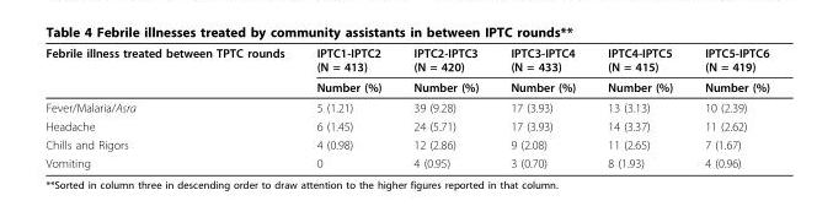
<table><thead><tr><td rowspan="2">Febrile illness treated between TPTC rounds</td><td rowspan="2">IPTC1-IPTC2 (N = 413) Number (%)</td><td rowspan="2">IPTC2-IPTC3 (N = 420) Number (%)</td><td rowspan="2">IPTC3-IPTC4 (N = 433) Number (%)</td><td rowspan="2">IPTC4-IPTC5 (N = 415) Number (%)</td><td rowspan="2">IPTC5-IPTC6 (N = 419) Number (%)</td></tr><tr></tr></thead><tbody><tr><td>Fever/Malaria/Asra</td><td>5 (1.21)</td><td>39 (9.28)</td><td>17 (3.93)</td><td>13 (3.13)</td><td>10 (2.39)</td></tr><tr><td>Headache</td><td>6 (1.45)</td><td>24 (5.71)</td><td>17 (3.93)</td><td>14 (3.37)</td><td>11 (2.62)</td></tr><tr><td>Chills and Rigors</td><td>4 (0.98)</td><td>12 (2.86)</td><td>9 (2.08)</td><td>11 (2.65)</td><td>7 (1.67)</td></tr><tr><td>Vomiting</td><td>0</td><td>4 (0.95)</td><td>3 (0.70)</td><td>8 (1.93)</td><td>4 (0.96)</td></tr></tbody></table>